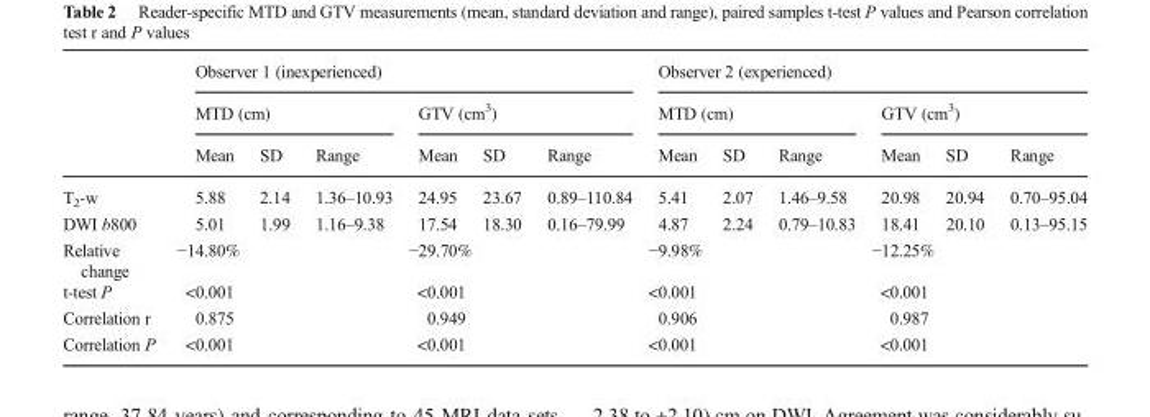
<table><thead><tr><td rowspan="3"></td><td colspan="6">Observer 1 (inexperienced)</td><td colspan="6">Observer 2 (experienced)</td></tr><tr><td colspan="3">MTD (cm)</td><td colspan="3">GTV (cm<sup>3</sup>)</td><td colspan="3">MTD (cm)</td><td colspan="3">GTV (cm<sup>3</sup>)</td></tr><tr><td>Mean</td><td>SD</td><td>Range</td><td>Mean</td><td>SD</td><td>Range</td><td>Mean</td><td>SD</td><td>Range</td><td>Mean</td><td>SD</td><td>Range</td></tr></thead><tbody><tr><td>T<sub>2</sub>-w</td><td>5.88</td><td>2.14</td><td>1.36–10.93</td><td>24.95</td><td>23.67</td><td>0.89–110.84</td><td>5.41</td><td>2.07</td><td>1.46–9.58</td><td>20.98</td><td>20.94</td><td>0.70–95.04</td></tr><tr><td>DWI b800</td><td>5.01</td><td>1.99</td><td>1.16–9.38</td><td>17.54</td><td>18.30</td><td>0.16–79.99</td><td>4.87</td><td>2.24</td><td>0.79–10.83</td><td>18.41</td><td>20.10</td><td>0.13–95.15</td></tr><tr><td>Relative change</td><td colspan="3">−14.80%</td><td colspan="3">−29.70%</td><td colspan="3">−9.98%</td><td colspan="3">−12.25%</td></tr><tr><td>t-test P</td><td colspan="3">&lt;0.001</td><td colspan="3">&lt;0.001</td><td colspan="3">&lt;0.001</td><td colspan="3">&lt;0.001</td></tr><tr><td>Correlation r</td><td colspan="3">0.875</td><td colspan="3">0.949</td><td colspan="3">0.906</td><td colspan="3">0.987</td></tr><tr><td>Correlation P</td><td colspan="3">&lt;0.001</td><td colspan="3">&lt;0.001</td><td colspan="3">&lt;0.001</td><td colspan="3">&lt;0.001</td></tr></tbody></table>